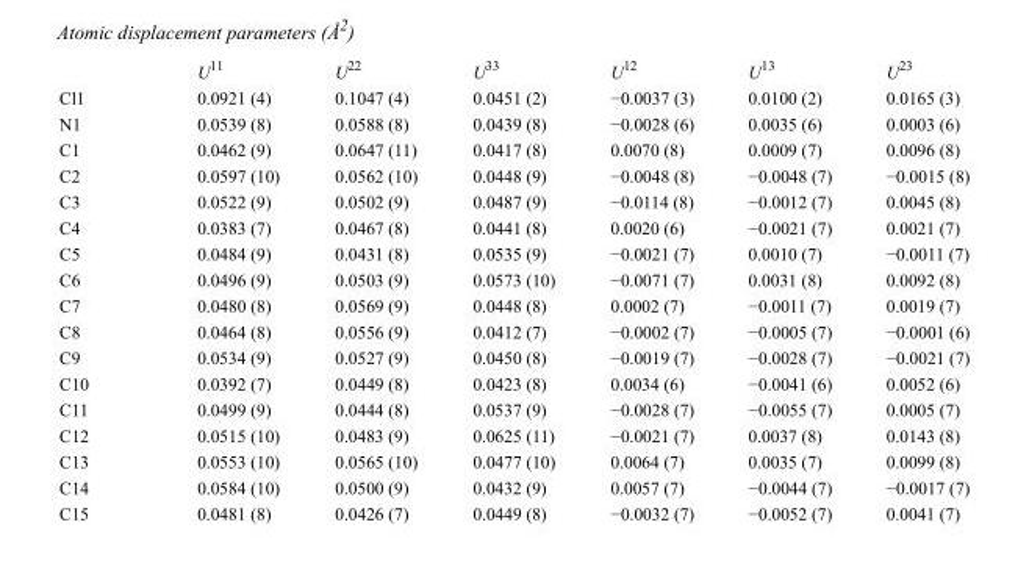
<table><thead><tr><td></td><td>U<sup>11</sup></td><td>U<sup>22</sup></td><td>U<sup>33</sup></td><td>U<sup>12</sup></td><td>U<sup>13</sup></td><td>U<sup>23</sup></td></tr></thead><tbody><tr><td>Cl1</td><td>0.0921 (4)</td><td>0.1047 (4)</td><td>0.0451 (2)</td><td>−0.0037 (3)</td><td>0.0100 (2)</td><td>0.0165 (3)</td></tr><tr><td>N1</td><td>0.0539 (8)</td><td>0.0588 (8)</td><td>0.0439 (8)</td><td>−0.0028 (6)</td><td>0.0035 (6)</td><td>0.0003 (6)</td></tr><tr><td>C1</td><td>0.0462 (9)</td><td>0.0647 (11)</td><td>0.0417 (8)</td><td>0.0070 (8)</td><td>0.0009 (7)</td><td>0.0096 (8)</td></tr><tr><td>C2</td><td>0.0597 (10)</td><td>0.0562 (10)</td><td>0.0448 (9)</td><td>−0.0048 (8)</td><td>−0.0048 (7)</td><td>−0.0015 (8)</td></tr><tr><td>C3</td><td>0.0522 (9)</td><td>0.0502 (9)</td><td>0.0487 (9)</td><td>−0.0114 (8)</td><td>−0.0012 (7)</td><td>0.0045 (8)</td></tr><tr><td>C4</td><td>0.0383 (7)</td><td>0.0467 (8)</td><td>0.0441 (8)</td><td>0.0020 (6)</td><td>−0.0021 (7)</td><td>0.0021 (7)</td></tr><tr><td>C5</td><td>0.0484 (9)</td><td>0.0431 (8)</td><td>0.0535 (9)</td><td>−0.0021 (7)</td><td>0.0010 (7)</td><td>−0.0011 (7)</td></tr><tr><td>C6</td><td>0.0496 (9)</td><td>0.0503 (9)</td><td>0.0573 (10)</td><td>−0.0071 (7)</td><td>0.0031 (8)</td><td>0.0092 (8)</td></tr><tr><td>C7</td><td>0.0480 (8)</td><td>0.0569 (9)</td><td>0.0448 (8)</td><td>0.0002 (7)</td><td>−0.0011 (7)</td><td>0.0019 (7)</td></tr><tr><td>C8</td><td>0.0464 (8)</td><td>0.0556 (9)</td><td>0.0412 (7)</td><td>−0.0002 (7)</td><td>−0.0005 (7)</td><td>−0.0001 (6)</td></tr><tr><td>C9</td><td>0.0534 (9)</td><td>0.0527 (9)</td><td>0.0450 (8)</td><td>−0.0019 (7)</td><td>−0.0028 (7)</td><td>−0.0021 (7)</td></tr><tr><td>C10</td><td>0.0392 (7)</td><td>0.0449 (8)</td><td>0.0423 (8)</td><td>0.0034 (6)</td><td>−0.0041 (6)</td><td>0.0052 (6)</td></tr><tr><td>C11</td><td>0.0499 (9)</td><td>0.0444 (8)</td><td>0.0537 (9)</td><td>−0.0028 (7)</td><td>−0.0055 (7)</td><td>0.0005 (7)</td></tr><tr><td>C12</td><td>0.0515 (10)</td><td>0.0483 (9)</td><td>0.0625 (11)</td><td>−0.0021 (7)</td><td>0.0037 (8)</td><td>0.0143 (8)</td></tr><tr><td>C13</td><td>0.0553 (10)</td><td>0.0565 (10)</td><td>0.0477 (10)</td><td>0.0064 (7)</td><td>0.0035 (7)</td><td>0.0099 (8)</td></tr><tr><td>C14</td><td>0.0584 (10)</td><td>0.0500 (9)</td><td>0.0432 (9)</td><td>0.0057 (7)</td><td>−0.0044 (7)</td><td>−0.0017 (7)</td></tr><tr><td>C15</td><td>0.0481 (8)</td><td>0.0426 (7)</td><td>0.0449 (8)</td><td>−0.0032 (7)</td><td>−0.0052 (7)</td><td>0.0041 (7)</td></tr></tbody></table>